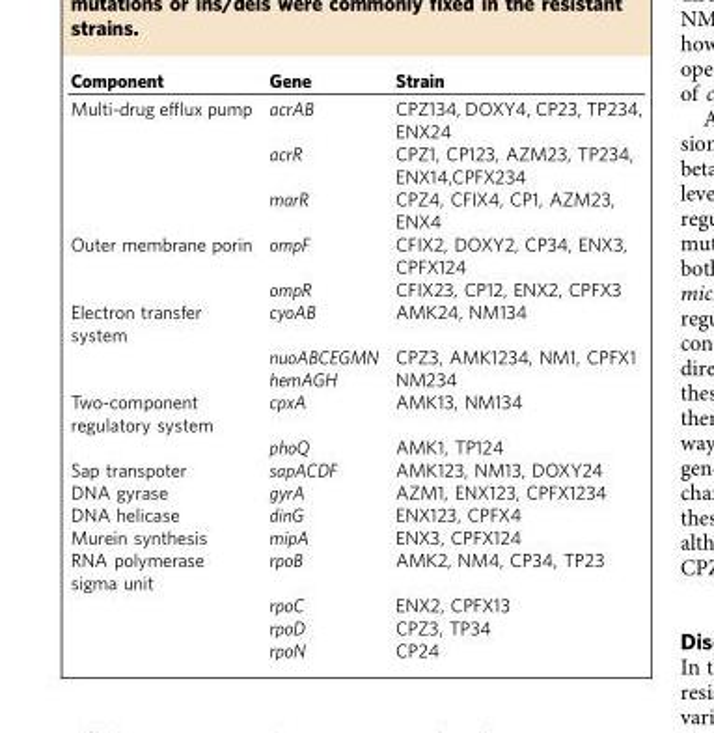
<table><thead><tr><td>Component</td><td>Gene</td><td>Strain</td></tr></thead><tbody><tr><td rowspan="3">Multi-drug efflux pump</td><td>acrAB</td><td>CPZ134, DOXY4, CP23, TP234, ENX24</td></tr><tr><td>acrR</td><td>CPZ1, CP123, AZM23, TP234, ENX14,CPFX234</td></tr><tr><td>marR</td><td>CPZ4, CFIX4, CP1, AZM23, ENX4</td></tr><tr><td rowspan="2">Outer membrane porin</td><td>ompF</td><td>CFIX2, DOXY2, CP34, ENX3, CPFX124</td></tr><tr><td>ompR</td><td>CFIX23, CP12, ENX2, CPFX3</td></tr><tr><td rowspan="3">Electron transfer system</td><td>cyoAB</td><td>AMK24, NM134</td></tr><tr><td>nuoABCEGMN</td><td>CPZ3, AMK1234, NM1, CPFX1</td></tr><tr><td>hemAGH</td><td>NM234</td></tr><tr><td rowspan="2">Two-component regulatory system</td><td>cpxA</td><td>AMK13, NM134</td></tr><tr><td>phoQ</td><td>AMK1, TP124</td></tr><tr><td>Sap transpoter</td><td>sapACDF</td><td>AMK123, NM13, DOXY24</td></tr><tr><td>DNA gyrase</td><td>gyrA</td><td>AZM1, ENX123, CPFX1234</td></tr><tr><td>DNA helicase</td><td>dinG</td><td>ENX123, CPFX4</td></tr><tr><td>Murein synthesis</td><td>mipA</td><td>ENX3, CPFX124</td></tr><tr><td rowspan="4">RNA polymerase sigma unit</td><td>rpoB</td><td>AMK2, NM4, CP34, TP23</td></tr><tr><td>rpoC</td><td>ENX2, CPFX13</td></tr><tr><td>rpoD</td><td>CPZ3, TP34</td></tr><tr><td>rpoN</td><td>CP24</td></tr></tbody></table>